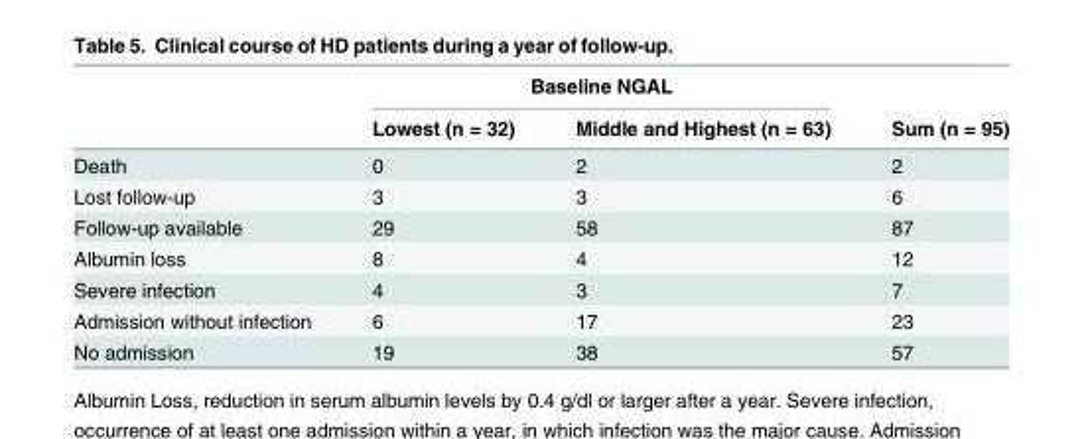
<table><thead><tr><td rowspan="2"></td><td colspan="2">Baseline NGAL</td><td rowspan="2">Sum (n = 95)</td></tr><tr><td>Lowest (n = 32)</td><td>Middle and Highest (n = 63)</td></tr></thead><tbody><tr><td>Death</td><td>0</td><td>2</td><td>2</td></tr><tr><td>Lost follow-up</td><td>3</td><td>3</td><td>6</td></tr><tr><td>Follow-up available</td><td>29</td><td>58</td><td>87</td></tr><tr><td>Albumin loss</td><td>8</td><td>4</td><td>12</td></tr><tr><td>Severe infection</td><td>4</td><td>3</td><td>7</td></tr><tr><td>Admission without infection</td><td>6</td><td>17</td><td>23</td></tr><tr><td>No admission</td><td>19</td><td>38</td><td>57</td></tr></tbody></table>